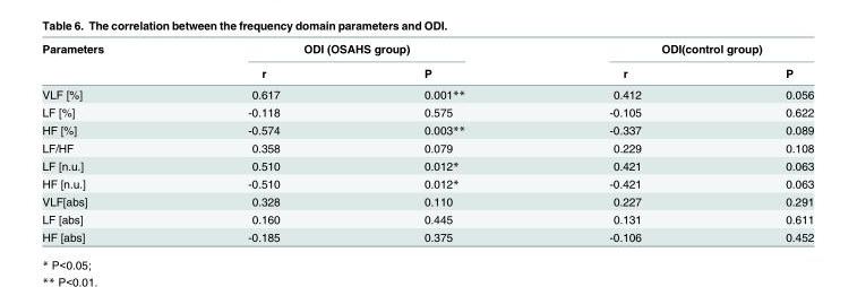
<table><thead><tr><td rowspan="2">Parameters</td><td colspan="2">ODI (OSAHS group)</td><td colspan="2">ODI(control group)</td></tr><tr><td>r</td><td>P</td><td>r</td><td>P</td></tr></thead><tbody><tr><td>VLF [%]</td><td>0.617</td><td>0.001**</td><td>0.412</td><td>0.056</td></tr><tr><td>LF [%]</td><td>-0.118</td><td>0.575</td><td>-0.105</td><td>0.622</td></tr><tr><td>HF [%]</td><td>-0.574</td><td>0.003**</td><td>-0.337</td><td>0.089</td></tr><tr><td>LF/HF</td><td>0.358</td><td>0.079</td><td>0.229</td><td>0.108</td></tr><tr><td>LF [n.u.]</td><td>0.510</td><td>0.012*</td><td>0.421</td><td>0.063</td></tr><tr><td>HF [n.u.]</td><td>-0.510</td><td>0.012*</td><td>-0.421</td><td>0.063</td></tr><tr><td>VLF[abs]</td><td>0.328</td><td>0.110</td><td>0.227</td><td>0.291</td></tr><tr><td>LF [abs]</td><td>0.160</td><td>0.445</td><td>0.131</td><td>0.611</td></tr><tr><td>HF [abs]</td><td>-0.185</td><td>0.375</td><td>-0.106</td><td>0.452</td></tr></tbody></table>